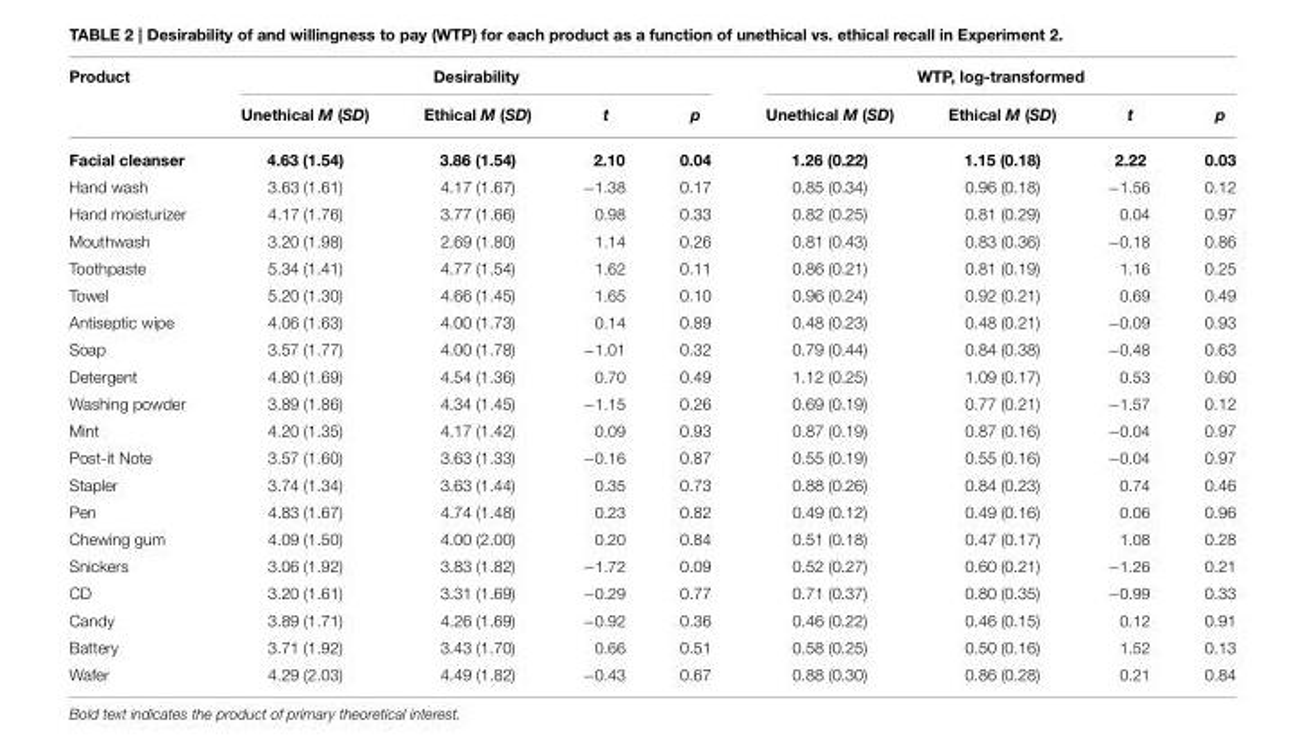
<table><thead><tr><td rowspan="2">Product</td><td colspan="4">Desirability</td><td colspan="4">WTP, log-transformed</td></tr><tr><td>Unethical M (SD)</td><td>Ethical M (SD)</td><td>t</td><td>p</td><td>Unethical M (SD)</td><td>Ethical M (SD)</td><td>t</td><td>p</td></tr></thead><tbody><tr><td>Facial cleanser</td><td>4.63 (1.54)</td><td>3.86 (1.54)</td><td>2.10</td><td>0.04</td><td>1.26 (0.22)</td><td>1.15 (0.18)</td><td>2.22</td><td>0.03</td></tr><tr><td>Hand wash</td><td>3.63 (1.61)</td><td>4.17 (1.67)</td><td>−1.38</td><td>0.17</td><td>0.85 (0.34)</td><td>0.96 (0.18)</td><td>−1.56</td><td>0.12</td></tr><tr><td>Hand moisturizer</td><td>4.17 (1.76)</td><td>3.77 (1.66)</td><td>0.98</td><td>0.33</td><td>0.82 (0.25)</td><td>0.81 (0.29)</td><td>0.04</td><td>0.97</td></tr><tr><td>Mouthwash</td><td>3.20 (1.98)</td><td>2.69 (1.80)</td><td>1.14</td><td>0.26</td><td>0.81 (0.43)</td><td>0.83 (0.36)</td><td>−0.18</td><td>0.86</td></tr><tr><td>Toothpaste</td><td>5.34 (1.41)</td><td>4.77 (1.54)</td><td>1.62</td><td>0.11</td><td>0.86 (0.21)</td><td>0.81 (0.19)</td><td>1.16</td><td>0.25</td></tr><tr><td>Towel</td><td>5.20 (1.30)</td><td>4.66 (1.45)</td><td>1.65</td><td>0.10</td><td>0.96 (0.24)</td><td>0.92 (0.21)</td><td>0.69</td><td>0.49</td></tr><tr><td>Antiseptic wipe</td><td>4.06 (1.63)</td><td>4.00 (1.73)</td><td>0.14</td><td>0.89</td><td>0.48 (0.23)</td><td>0.48 (0.21)</td><td>−0.09</td><td>0.93</td></tr><tr><td>Soap</td><td>3.57 (1.77)</td><td>4.00 (1.78)</td><td>−1.01</td><td>0.32</td><td>0.79 (0.44)</td><td>0.84 (0.38)</td><td>−0.48</td><td>0.63</td></tr><tr><td>Detergent</td><td>4.80 (1.69)</td><td>4.54 (1.36)</td><td>0.70</td><td>0.49</td><td>1.12 (0.25)</td><td>1.09 (0.17)</td><td>0.53</td><td>0.60</td></tr><tr><td>Washing powder</td><td>3.89 (1.86)</td><td>4.34 (1.45)</td><td>−1.15</td><td>0.26</td><td>0.69 (0.19)</td><td>0.77 (0.21)</td><td>−1.57</td><td>0.12</td></tr><tr><td>Mint</td><td>4.20 (1.35)</td><td>4.17 (1.42)</td><td>0.09</td><td>0.93</td><td>0.87 (0.19)</td><td>0.87 (0.16)</td><td>−0.04</td><td>0.97</td></tr><tr><td>Post-it Note</td><td>3.57 (1.60)</td><td>3.63 (1.33)</td><td>−0.16</td><td>0.87</td><td>0.55 (0.19)</td><td>0.55 (0.16)</td><td>−0.04</td><td>0.97</td></tr><tr><td>Stapler</td><td>3.74 (1.34)</td><td>3.63 (1.44)</td><td>0.35</td><td>0.73</td><td>0.88 (0.26)</td><td>0.84 (0.23)</td><td>0.74</td><td>0.46</td></tr><tr><td>Pen</td><td>4.83 (1.67)</td><td>4.74 (1.48)</td><td>0.23</td><td>0.82</td><td>0.49 (0.12)</td><td>0.49 (0.16)</td><td>0.06</td><td>0.96</td></tr><tr><td>Chewing gum</td><td>4.09 (1.50)</td><td>4.00 (2.00)</td><td>0.20</td><td>0.84</td><td>0.51 (0.18)</td><td>0.47 (0.17)</td><td>1.08</td><td>0.28</td></tr><tr><td>Snickers</td><td>3.06 (1.92)</td><td>3.83 (1.82)</td><td>−1.72</td><td>0.09</td><td>0.52 (0.27)</td><td>0.60 (0.21)</td><td>−1.26</td><td>0.21</td></tr><tr><td>CD</td><td>3.20 (1.61)</td><td>3.31 (1.69)</td><td>−0.29</td><td>0.77</td><td>0.71 (0.37)</td><td>0.80 (0.35)</td><td>−0.99</td><td>0.33</td></tr><tr><td>Candy</td><td>3.89 (1.71)</td><td>4.26 (1.69)</td><td>−0.92</td><td>0.36</td><td>0.46 (0.22)</td><td>0.46 (0.15)</td><td>0.12</td><td>0.91</td></tr><tr><td>Battery</td><td>3.71 (1.92)</td><td>3.43 (1.70)</td><td>0.66</td><td>0.51</td><td>0.58 (0.25)</td><td>0.50 (0.16)</td><td>1.52</td><td>0.13</td></tr><tr><td>Wafer</td><td>4.29 (2.03)</td><td>4.49 (1.82)</td><td>−0.43</td><td>0.67</td><td>0.88 (0.30)</td><td>0.86 (0.28)</td><td>0.21</td><td>0.84</td></tr></tbody></table>